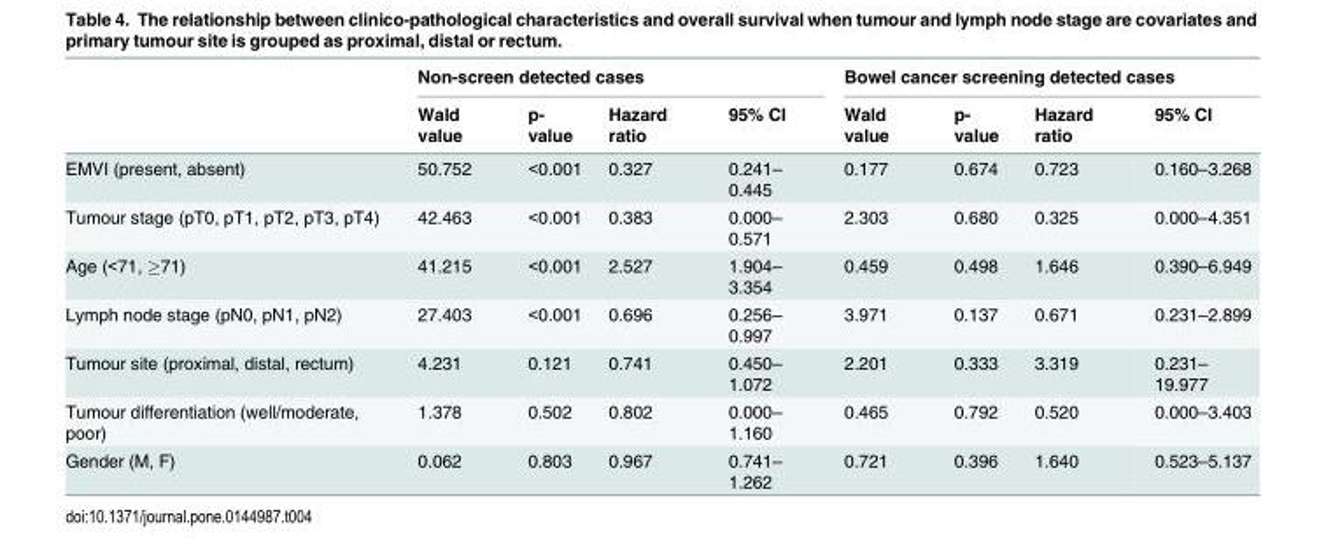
<table><thead><tr><td rowspan="2"></td><td colspan="4">Non-screen detected cases</td><td colspan="4">Bowel cancer screening detected cases</td></tr><tr><td>Wald value</td><td>p- value</td><td>Hazard ratio</td><td>95% CI</td><td>Wald value</td><td>p- value</td><td>Hazard ratio</td><td>95% CI</td></tr></thead><tbody><tr><td>EMVI (present, absent)</td><td>50.752</td><td>&lt;0.001</td><td>0.327</td><td>0.241– 0.445</td><td>0.177</td><td>0.674</td><td>0.723</td><td>0.160–3.268</td></tr><tr><td>Tumour stage (pT0, pT1, pT2, pT3, pT4)</td><td>42.463</td><td>&lt;0.001</td><td>0.383</td><td>0.000– 0.571</td><td>2.303</td><td>0.680</td><td>0.325</td><td>0.000–4.351</td></tr><tr><td>Age (&lt;71, ≥71)</td><td>41.215</td><td>&lt;0.001</td><td>2.527</td><td>1.904– 3.354</td><td>0.459</td><td>0.498</td><td>1.646</td><td>0.390–6.949</td></tr><tr><td>Lymph node stage (pN0, pN1, pN2)</td><td>27.403</td><td>&lt;0.001</td><td>0.696</td><td>0.256– 0.997</td><td>3.971</td><td>0.137</td><td>0.671</td><td>0.231–2.899</td></tr><tr><td>Tumour site (proximal, distal, rectum)</td><td>4.231</td><td>0.121</td><td>0.741</td><td>0.450– 1.072</td><td>2.201</td><td>0.333</td><td>3.319</td><td>0.231– 19.977</td></tr><tr><td>Tumour differentiation (well/moderate, poor)</td><td>1.378</td><td>0.502</td><td>0.802</td><td>0.000– 1.160</td><td>0.465</td><td>0.792</td><td>0.520</td><td>0.000–3.403</td></tr><tr><td>Gender (M, F)</td><td>0.062</td><td>0.803</td><td>0.967</td><td>0.741– 1.262</td><td>0.721</td><td>0.396</td><td>1.640</td><td>0.523–5.137</td></tr></tbody></table>